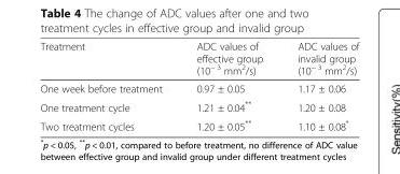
<table><thead><tr><td>Treatment</td><td>ADC values of effective group (10<sup>− 3</sup> mm<sup>2</sup>/s)</td><td>ADC values of invalid group (10<sup>− 3</sup> mm<sup>2</sup>/s)</td></tr></thead><tbody><tr><td>One week before treatment</td><td>0.97 ± 0.05</td><td>1.17 ± 0.06</td></tr><tr><td>One treatment cycle</td><td>1.21 ± 0.04**</td><td>1.20 ± 0.08</td></tr><tr><td>Two treatment cycles</td><td>1.20 ± 0.05**</td><td>1.10 ± 0.08*</td></tr></tbody></table>